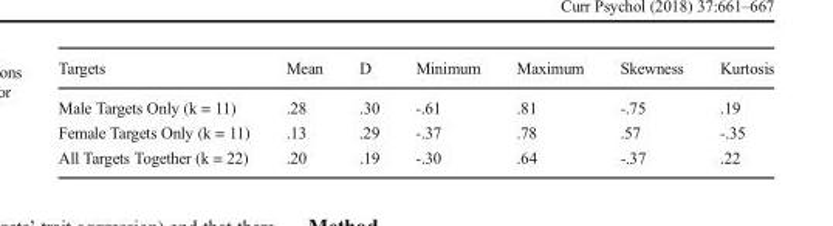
<table><thead><tr><td>Targets</td><td>Mean</td><td>D</td><td>Minimum</td><td>Maximum</td><td>Skewness</td><td>Kurtosis</td></tr></thead><tbody><tr><td>Male Targets Only (k = 11)</td><td>.28</td><td>.30</td><td>-.61</td><td>.81</td><td>-.75</td><td>.19</td></tr><tr><td>Female Targets Only (k = 11)</td><td>.13</td><td>.29</td><td>-.37</td><td>.78</td><td>.57</td><td>-.35</td></tr><tr><td>All Targets Together (k = 22)</td><td>.20</td><td>.19</td><td>-.30</td><td>.64</td><td>-.37</td><td>.22</td></tr></tbody></table>